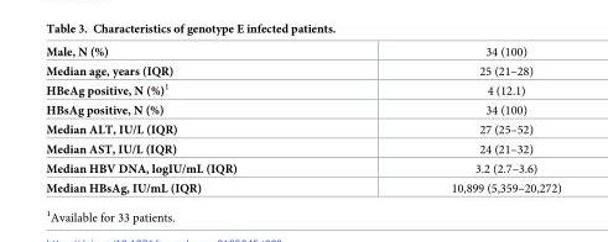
<table><tbody><tr><td>Male, N (%)</td><td>34 (100)</td></tr><tr><td>Median age, years (IQR)</td><td>25 (21–28)</td></tr><tr><td>HBeAg positive, N (%)<sup>1</sup></td><td>4 (12.1)</td></tr><tr><td>HBsAg positive, N (%)</td><td>34 (100)</td></tr><tr><td>Median ALT, IU/L (IQR)</td><td>27 (25–52)</td></tr><tr><td>Median AST, IU/L (IQR)</td><td>24 (21–32)</td></tr><tr><td>Median HBV DNA, logIU/mL (IQR)</td><td>3.2 (2.7–3.6)</td></tr><tr><td>Median HBsAg, IU/mL (IQR)</td><td>10,899 (5,359–20,272)</td></tr></tbody></table>